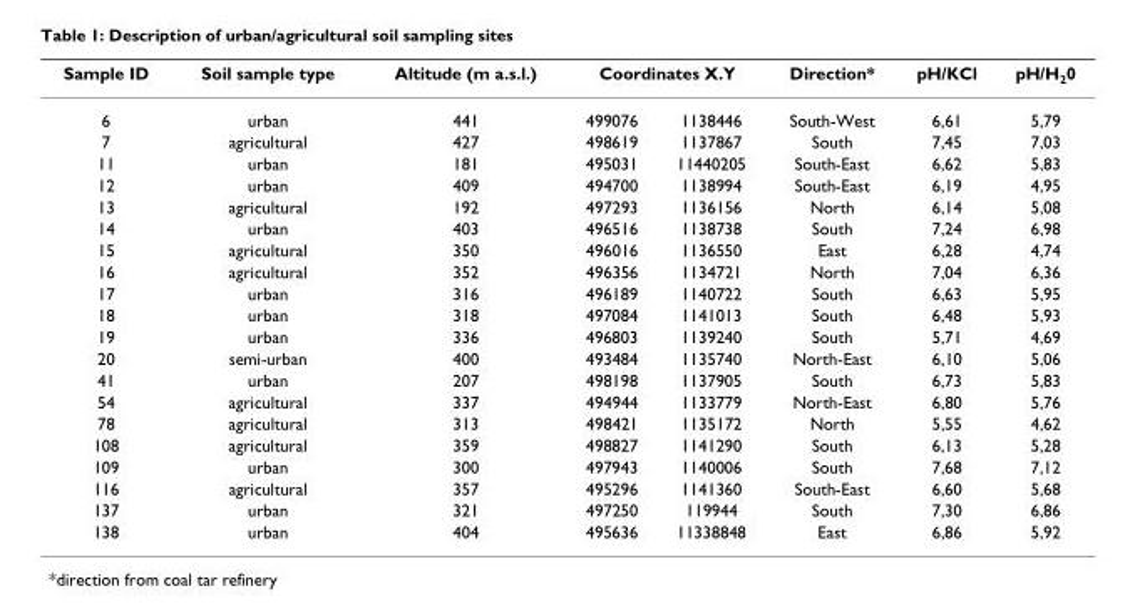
<table><thead><tr><td rowspan="2">Sample ID 6</td><td rowspan="2">Soil sample type urban</td><td rowspan="2">Altitude (m a.s.l.) 441</td><td colspan="2">Coordinates X.Y</td><td rowspan="2">Direction* South-West</td><td rowspan="2">pH/KCl 6,61</td><td rowspan="2">pH/H<sub>2</sub>0 5,79</td></tr><tr><td>499076</td><td>1138446</td></tr></thead><tbody><tr><td>7</td><td>agricultural</td><td>427</td><td>498619</td><td>1137867</td><td>South</td><td>7,45</td><td>7,03</td></tr><tr><td>11</td><td>urban</td><td>181</td><td>495031</td><td>11440205</td><td>South-East</td><td>6,62</td><td>5,83</td></tr><tr><td>12</td><td>urban</td><td>409</td><td>494700</td><td>1138994</td><td>South-East</td><td>6,19</td><td>4,95</td></tr><tr><td>13</td><td>agricultural</td><td>192</td><td>497293</td><td>1136156</td><td>North</td><td>6,14</td><td>5,08</td></tr><tr><td>14</td><td>urban</td><td>403</td><td>496516</td><td>1138738</td><td>South</td><td>7,24</td><td>6,98</td></tr><tr><td>15</td><td>agricultural</td><td>350</td><td>496016</td><td>1136550</td><td>East</td><td>6,28</td><td>4,74</td></tr><tr><td>16</td><td>agricultural</td><td>352</td><td>496356</td><td>1134721</td><td>North</td><td>7,04</td><td>6,36</td></tr><tr><td>17</td><td>urban</td><td>316</td><td>496189</td><td>1140722</td><td>South</td><td>6,63</td><td>5,95</td></tr><tr><td>18</td><td>urban</td><td>318</td><td>497084</td><td>1141013</td><td>South</td><td>6,48</td><td>5,93</td></tr><tr><td>19</td><td>urban</td><td>336</td><td>496803</td><td>1139240</td><td>South</td><td>5,71</td><td>4,69</td></tr><tr><td>20</td><td>semi-urban</td><td>400</td><td>493484</td><td>1135740</td><td>North-East</td><td>6,10</td><td>5,06</td></tr><tr><td>41</td><td>urban</td><td>207</td><td>498198</td><td>1137905</td><td>South</td><td>6,73</td><td>5,83</td></tr><tr><td>54</td><td>agricultural</td><td>337</td><td>494944</td><td>1133779</td><td>North-East</td><td>6,80</td><td>5,76</td></tr><tr><td>78</td><td>agricultural</td><td>313</td><td>498421</td><td>1135172</td><td>North</td><td>5,55</td><td>4,62</td></tr><tr><td>108</td><td>agricultural</td><td>359</td><td>498827</td><td>1141290</td><td>South</td><td>6,13</td><td>5,28</td></tr><tr><td>109</td><td>urban</td><td>300</td><td>497943</td><td>1140006</td><td>South</td><td>7,68</td><td>7,12</td></tr><tr><td>116</td><td>agricultural</td><td>357</td><td>495296</td><td>1141360</td><td>South-East</td><td>6,60</td><td>5,68</td></tr><tr><td>137</td><td>urban</td><td>321</td><td>497250</td><td>119944</td><td>South</td><td>7,30</td><td>6,86</td></tr><tr><td>138</td><td>urban</td><td>404</td><td>495636</td><td>11338848</td><td>East</td><td>6,86</td><td>5,92</td></tr></tbody></table>